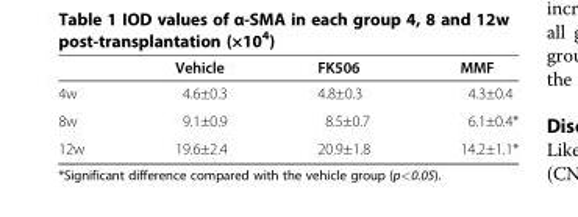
<table><thead><tr><td></td><td>Vehicle</td><td>FK506</td><td>MMF</td></tr></thead><tbody><tr><td>4w</td><td>4.6±0.3</td><td>4.8±0.3</td><td>4.3±0.4</td></tr><tr><td>8w</td><td>9.1±0.9</td><td>8.5±0.7</td><td>6.1±0.4*</td></tr><tr><td>12w</td><td>19.6±2.4</td><td>20.9±1.8</td><td>14.2±1.1*</td></tr></tbody></table>